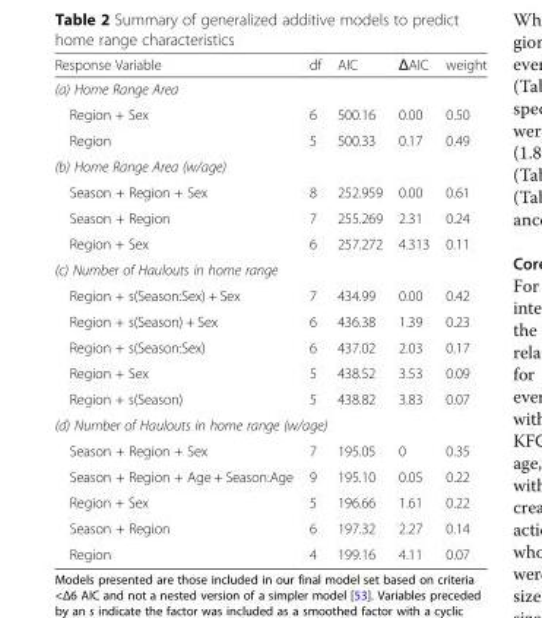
<table><thead><tr><td>Response Variable</td><td>df</td><td>AIC</td><td>ΔAIC</td><td>weight</td></tr></thead><tbody><tr><td colspan="5">(a) Home Range Area</td></tr><tr><td>Region + Sex</td><td>6</td><td>500.16</td><td>0.00</td><td>0.50</td></tr><tr><td>Region</td><td>5</td><td>500.33</td><td>0.17</td><td>0.49</td></tr><tr><td colspan="5">(b) Home Range Area (w/age)</td></tr><tr><td>Season + Region + Sex</td><td>8</td><td>252.959</td><td>0.00</td><td>0.61</td></tr><tr><td>Season + Region</td><td>7</td><td>255.269</td><td>2.31</td><td>0.24</td></tr><tr><td>Region + Sex</td><td>6</td><td>257.272</td><td>4.313</td><td>0.11</td></tr><tr><td colspan="5">(c) Number of Haulouts in home range</td></tr><tr><td>Region + s(Season:Sex) + Sex</td><td>7</td><td>434.99</td><td>0.00</td><td>0.42</td></tr><tr><td>Region + s(Season) + Sex</td><td>6</td><td>436.38</td><td>1.39</td><td>0.23</td></tr><tr><td>Region + s(Season:Sex)</td><td>6</td><td>437.02</td><td>2.03</td><td>0.17</td></tr><tr><td>Region + Sex</td><td>5</td><td>438.52</td><td>3.53</td><td>0.09</td></tr><tr><td>Region + s(Season)</td><td>5</td><td>438.82</td><td>3.83</td><td>0.07</td></tr><tr><td colspan="5">(d) Number of Haulouts in home range (w/age)</td></tr><tr><td>Season + Region + Sex</td><td>7</td><td>195.05</td><td>0</td><td>0.35</td></tr><tr><td>Season + Region + Age + Season:Age</td><td>9</td><td>195.10</td><td>0.05</td><td>0.22</td></tr><tr><td>Region + Sex</td><td>5</td><td>196.66</td><td>1.61</td><td>0.22</td></tr><tr><td>Season + Region</td><td>6</td><td>197.32</td><td>2.27</td><td>0.14</td></tr><tr><td>Region</td><td>4</td><td>199.16</td><td>4.11</td><td>0.07</td></tr></tbody></table>